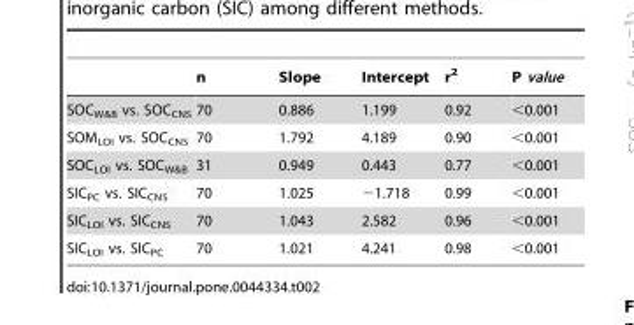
<table><thead><tr><td></td><td>n</td><td>Slope</td><td>Intercept</td><td>r<sup>2</sup></td><td>P value</td></tr></thead><tbody><tr><td>SOC<sub>W&amp;B</sub> vs. SOC<sub>CNS</sub></td><td>70</td><td>0.886</td><td>1.199</td><td>0.92</td><td>&lt;0.001</td></tr><tr><td>SOM<sub>LOI</sub> vs. SOC<sub>CNS</sub></td><td>70</td><td>1.792</td><td>4.189</td><td>0.90</td><td>&lt;0.001</td></tr><tr><td>SOC<sub>LOI</sub> vs. SOC<sub>W&amp;B</sub></td><td>31</td><td>0.949</td><td>0.443</td><td>0.77</td><td>&lt;0.001</td></tr><tr><td>SIC<sub>PC</sub> vs. SIC<sub>CNS</sub></td><td>70</td><td>1.025</td><td>−1.718</td><td>0.99</td><td>&lt;0.001</td></tr><tr><td>SIC<sub>LOI</sub> vs. SIC<sub>CNS</sub></td><td>70</td><td>1.043</td><td>2.582</td><td>0.96</td><td>&lt;0.001</td></tr><tr><td>SIC<sub>LOI</sub> vs. SIC<sub>PC</sub></td><td>70</td><td>1.021</td><td>4.241</td><td>0.98</td><td>&lt;0.001</td></tr></tbody></table>